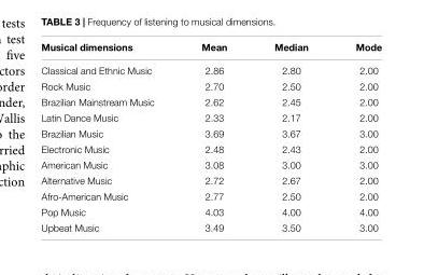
<table><thead><tr><td>Musical dimensions</td><td>Mean</td><td>Median</td><td>Mode</td></tr></thead><tbody><tr><td>Classical and Ethnic Music</td><td>2.86</td><td>2.80</td><td>2.00</td></tr><tr><td>Rock Music</td><td>2.70</td><td>2.50</td><td>2.00</td></tr><tr><td>Brazilian Mainstream Music</td><td>2.62</td><td>2.45</td><td>2.00</td></tr><tr><td>Latin Dance Music</td><td>2.33</td><td>2.17</td><td>2.00</td></tr><tr><td>Brazilian Music</td><td>3.69</td><td>3.67</td><td>3.00</td></tr><tr><td>Electronic Music</td><td>2.48</td><td>2.43</td><td>2.00</td></tr><tr><td>American Music</td><td>3.08</td><td>3.00</td><td>3.00</td></tr><tr><td>Alternative Music</td><td>2.72</td><td>2.67</td><td>2.00</td></tr><tr><td>Afro-American Music</td><td>2.77</td><td>2.50</td><td>2.00</td></tr><tr><td>Pop Music</td><td>4.03</td><td>4.00</td><td>4.00</td></tr><tr><td>Upbeat Music</td><td>3.49</td><td>3.50</td><td>3.00</td></tr></tbody></table>